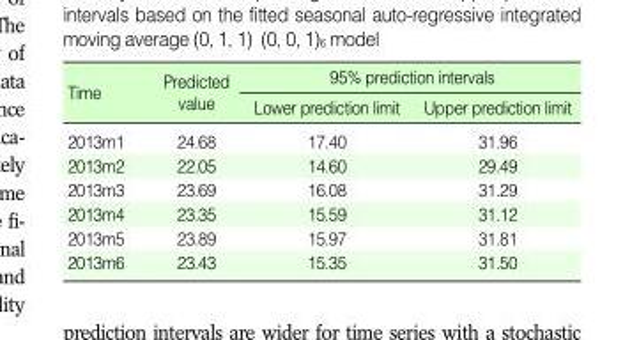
<table><thead><tr><td rowspan="2">Time</td><td rowspan="2">Predicted value</td><td colspan="2">95% prediction intervals</td></tr><tr><td>Lower prediction limit</td><td>Upper prediction limit</td></tr></thead><tbody><tr><td>2013m1</td><td>24.68</td><td>17.40</td><td>31.96</td></tr><tr><td>2013m2</td><td>22.05</td><td>14.60</td><td>29.49</td></tr><tr><td>2013m3</td><td>23.69</td><td>16.08</td><td>31.29</td></tr><tr><td>2013m4</td><td>23.35</td><td>15.59</td><td>31.12</td></tr><tr><td>2013m5</td><td>23.89</td><td>15.97</td><td>31.81</td></tr><tr><td>2013m6</td><td>23.43</td><td>15.35</td><td>31.50</td></tr></tbody></table>